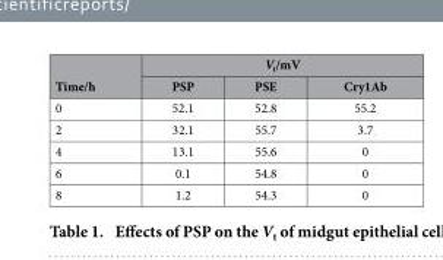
<table><thead><tr><td rowspan="2">Time/h</td><td colspan="3">V<sub>t</sub>/mV</td></tr><tr><td>PSP</td><td>PSE</td><td>Cry1Ab</td></tr></thead><tbody><tr><td>0</td><td>52.1</td><td>52.8</td><td>55.2</td></tr><tr><td>2</td><td>32.1</td><td>55.7</td><td>3.7</td></tr><tr><td>4</td><td>13.1</td><td>55.6</td><td>0</td></tr><tr><td>6</td><td>0.1</td><td>54.8</td><td>0</td></tr><tr><td>8</td><td>1.2</td><td>54.3</td><td>0</td></tr></tbody></table>